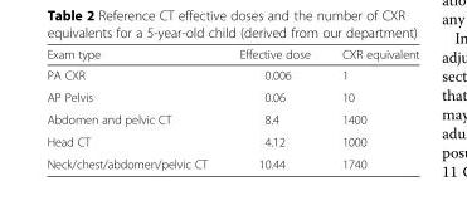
<table><thead><tr><td>Exam type</td><td>Effective dose</td><td>CXR equivalent</td></tr></thead><tbody><tr><td>PA CXR</td><td>0.006</td><td>1</td></tr><tr><td>AP Pelvis</td><td>0.06</td><td>10</td></tr><tr><td>Abdomen and pelvic CT</td><td>8.4</td><td>1400</td></tr><tr><td>Head CT</td><td>4.12</td><td>1000</td></tr><tr><td>Neck/chest/abdomen/pelvic CT</td><td>10.44</td><td>1740</td></tr></tbody></table>